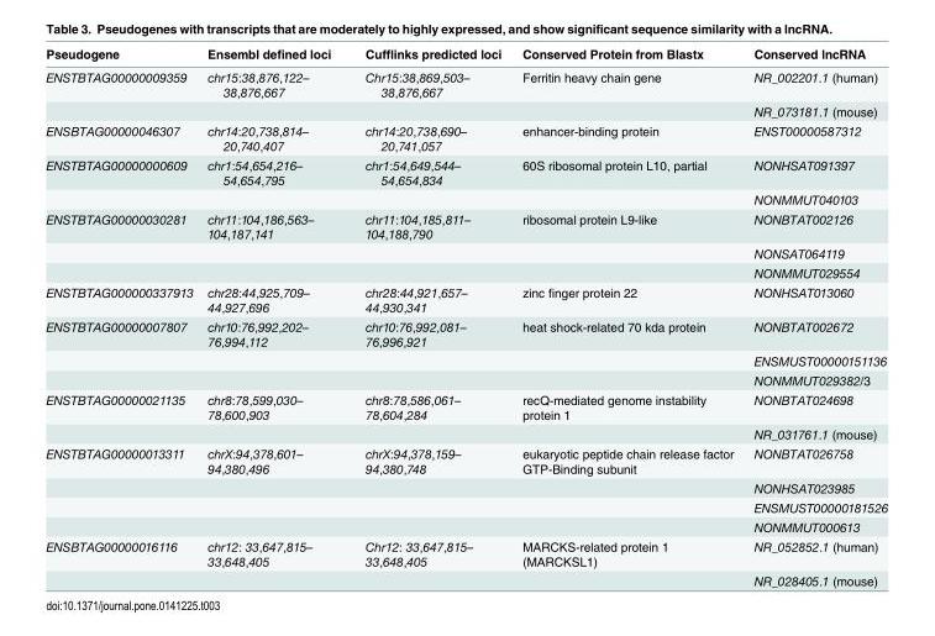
<table><thead><tr><td>Pseudogene</td><td>Ensembl defined loci</td><td>Cufflinks predicted loci</td><td>Conserved Protein from Blastx</td><td>Conserved lncRNA</td></tr></thead><tbody><tr><td rowspan="2">ENSTBTAG00000009359</td><td>chr15:38,876,122– 38,876,667</td><td>Chr15:38,869,503– 38,876,667</td><td>Ferritin heavy chain gene</td><td>NR_002201.1 (human)</td></tr><tr><td></td><td></td><td></td><td>NR_073181.1 (mouse)</td></tr><tr><td>ENSBTAG00000046307</td><td>chr14:20,738,814– 20,740,407</td><td>chr14:20,738,690– 20,741,057</td><td>enhancer-binding protein</td><td>ENST00000587312</td></tr><tr><td rowspan="2">ENSTBTAG00000000609</td><td>chr1:54,654,216– 54,654,795</td><td>chr1:54,649,544– 54,654,834</td><td>60S ribosomal protein L10, partial</td><td>NONHSAT091397</td></tr><tr><td></td><td></td><td></td><td>NONMMUT040103</td></tr><tr><td rowspan="3">ENSTBTAG00000030281</td><td>chr11:104,186,563– 104,187,141</td><td>chr11:104,185,811– 104,188,790</td><td>ribosomal protein L9-like</td><td>NONBTAT002126</td></tr><tr><td></td><td></td><td></td><td>NONSAT064119</td></tr><tr><td></td><td></td><td></td><td>NONMMUT029554</td></tr><tr><td>ENSTBTAG000000337913</td><td>chr28:44,925,709– 44,927,696</td><td>chr28:44,921,657– 44,930,341</td><td>zinc finger protein 22</td><td>NONHSAT013060</td></tr><tr><td rowspan="3">ENSTBTAG00000007807</td><td>chr10:76,992,202– 76,994,112</td><td>chr10:76,992,081– 76,996,921</td><td>heat shock-related 70 kda protein</td><td>NONBTAT002672</td></tr><tr><td></td><td></td><td></td><td>ENSMUST00000151136</td></tr><tr><td></td><td></td><td></td><td>NONMMUT029382/3</td></tr><tr><td rowspan="2">ENSTBTAG00000021135</td><td>chr8:78,599,030– 78,600,903</td><td>chr8:78,586,061– 78,604,284</td><td>recQ-mediated genome instability protein 1</td><td>NONBTAT024698</td></tr><tr><td></td><td></td><td></td><td>NR_031761.1 (mouse)</td></tr><tr><td rowspan="4">ENSTBTAG00000013311</td><td>chrX:94,378,601– 94,380,496</td><td>chrX:94,378,159– 94,380,748</td><td>eukaryotic peptide chain release factor GTP-Binding subunit</td><td>NONBTAT026758</td></tr><tr><td></td><td></td><td></td><td>NONHSAT023985</td></tr><tr><td></td><td></td><td></td><td>ENSMUST00000181526</td></tr><tr><td></td><td></td><td></td><td>NONMMUT000613</td></tr><tr><td rowspan="2">ENSBTAG00000016116</td><td>chr12: 33,647,815– 33,648,405</td><td>Chr12: 33,647,815– 33,648,405</td><td>MARCKS-related protein 1 (MARCKSL1)</td><td>NR_052852.1 (human)</td></tr><tr><td></td><td></td><td></td><td>NR_028405.1 (mouse)</td></tr></tbody></table>